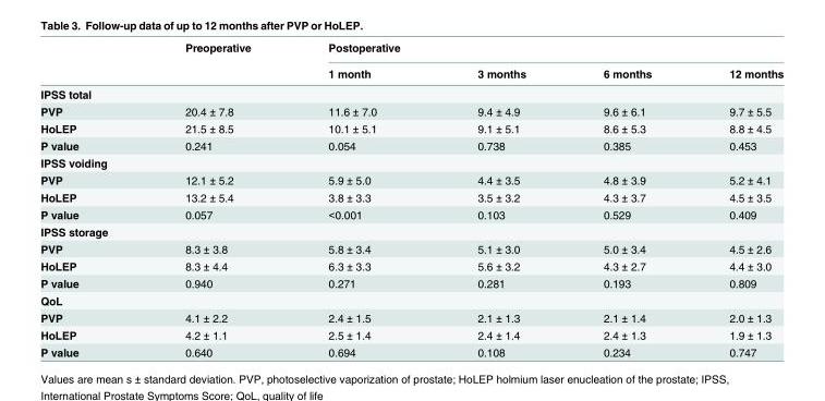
<table><thead><tr><td rowspan="2"></td><td rowspan="2">Preoperative</td><td rowspan="2">Postoperative 1 month</td><td rowspan="2">3 months</td><td rowspan="2">6 months</td><td rowspan="2">12 months</td></tr><tr></tr></thead><tbody><tr><td colspan="6">IPSS total</td></tr><tr><td>PVP</td><td>20.4 ± 7.8</td><td>11.6 ± 7.0</td><td>9.4 ± 4.9</td><td>9.6 ± 6.1</td><td>9.7 ± 5.5</td></tr><tr><td>HoLEP</td><td>21.5 ± 8.5</td><td>10.1 ± 5.1</td><td>9.1 ± 5.1</td><td>8.6 ± 5.3</td><td>8.8 ± 4.5</td></tr><tr><td>P value</td><td>0.241</td><td>0.054</td><td>0.738</td><td>0.385</td><td>0.453</td></tr><tr><td colspan="6">IPSS voiding</td></tr><tr><td>PVP</td><td>12.1 ± 5.2</td><td>5.9 ± 5.0</td><td>4.4 ± 3.5</td><td>4.8 ± 3.9</td><td>5.2 ± 4.1</td></tr><tr><td>HoLEP</td><td>13.2 ± 5.4</td><td>3.8 ± 3.3</td><td>3.5 ± 3.2</td><td>4.3 ± 3.7</td><td>4.5 ± 3.5</td></tr><tr><td>P value</td><td>0.057</td><td>&lt;0.001</td><td>0.103</td><td>0.529</td><td>0.409</td></tr><tr><td colspan="6">IPSS storage</td></tr><tr><td>PVP</td><td>8.3 ± 3.8</td><td>5.8 ± 3.4</td><td>5.1 ± 3.0</td><td>5.0 ± 3.4</td><td>4.5 ± 2.6</td></tr><tr><td>HoLEP</td><td>8.3 ± 4.4</td><td>6.3 ± 3.3</td><td>5.6 ± 3.2</td><td>4.3 ± 2.7</td><td>4.4 ± 3.0</td></tr><tr><td>P value</td><td>0.940</td><td>0.271</td><td>0.281</td><td>0.193</td><td>0.809</td></tr><tr><td colspan="6">QoL</td></tr><tr><td>PVP</td><td>4.1 ± 2.2</td><td>2.4 ± 1.5</td><td>2.1 ± 1.3</td><td>2.1 ± 1.4</td><td>2.0 ± 1.3</td></tr><tr><td>HoLEP</td><td>4.2 ± 1.1</td><td>2.5 ± 1.4</td><td>2.4 ± 1.4</td><td>2.4 ± 1.3</td><td>1.9 ± 1.3</td></tr><tr><td>P value</td><td>0.640</td><td>0.694</td><td>0.108</td><td>0.234</td><td>0.747</td></tr></tbody></table>